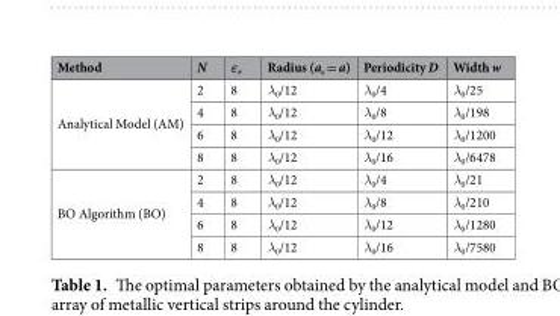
<table><thead><tr><td>Method</td><td>N</td><td>ε<sub>r</sub></td><td>Radius (a<sub>c</sub> = a)</td><td>Periodicity D</td><td>Width w</td></tr></thead><tbody><tr><td rowspan="4">Analytical Model (AM)</td><td>2</td><td>8</td><td>λ<sub>0</sub>/12</td><td>λ<sub>0</sub>/4</td><td>λ<sub>0</sub>/25</td></tr><tr><td>4</td><td>8</td><td>λ<sub>0</sub>/12</td><td>λ<sub>0</sub>/8</td><td>λ<sub>0</sub>/198</td></tr><tr><td>6</td><td>8</td><td>λ<sub>0</sub>/12</td><td>λ<sub>0</sub>/12</td><td>λ<sub>0</sub>/1200</td></tr><tr><td>8</td><td>8</td><td>λ<sub>0</sub>/12</td><td>λ<sub>0</sub>/16</td><td>λ<sub>0</sub>/6478</td></tr><tr><td rowspan="4">BO Algorithm (BO)</td><td>2</td><td>8</td><td>λ<sub>0</sub>/12</td><td>λ<sub>0</sub>/4</td><td>λ<sub>0</sub>/21</td></tr><tr><td>4</td><td>8</td><td>λ<sub>0</sub>/12</td><td>λ<sub>0</sub>/8</td><td>λ<sub>0</sub>/210</td></tr><tr><td>6</td><td>8</td><td>λ<sub>0</sub>/12</td><td>λ<sub>0</sub>/12</td><td>λ<sub>0</sub>/1280</td></tr><tr><td>8</td><td>8</td><td>λ<sub>0</sub>/12</td><td>λ<sub>0</sub>/16</td><td>λ<sub>0</sub>/7580</td></tr></tbody></table>